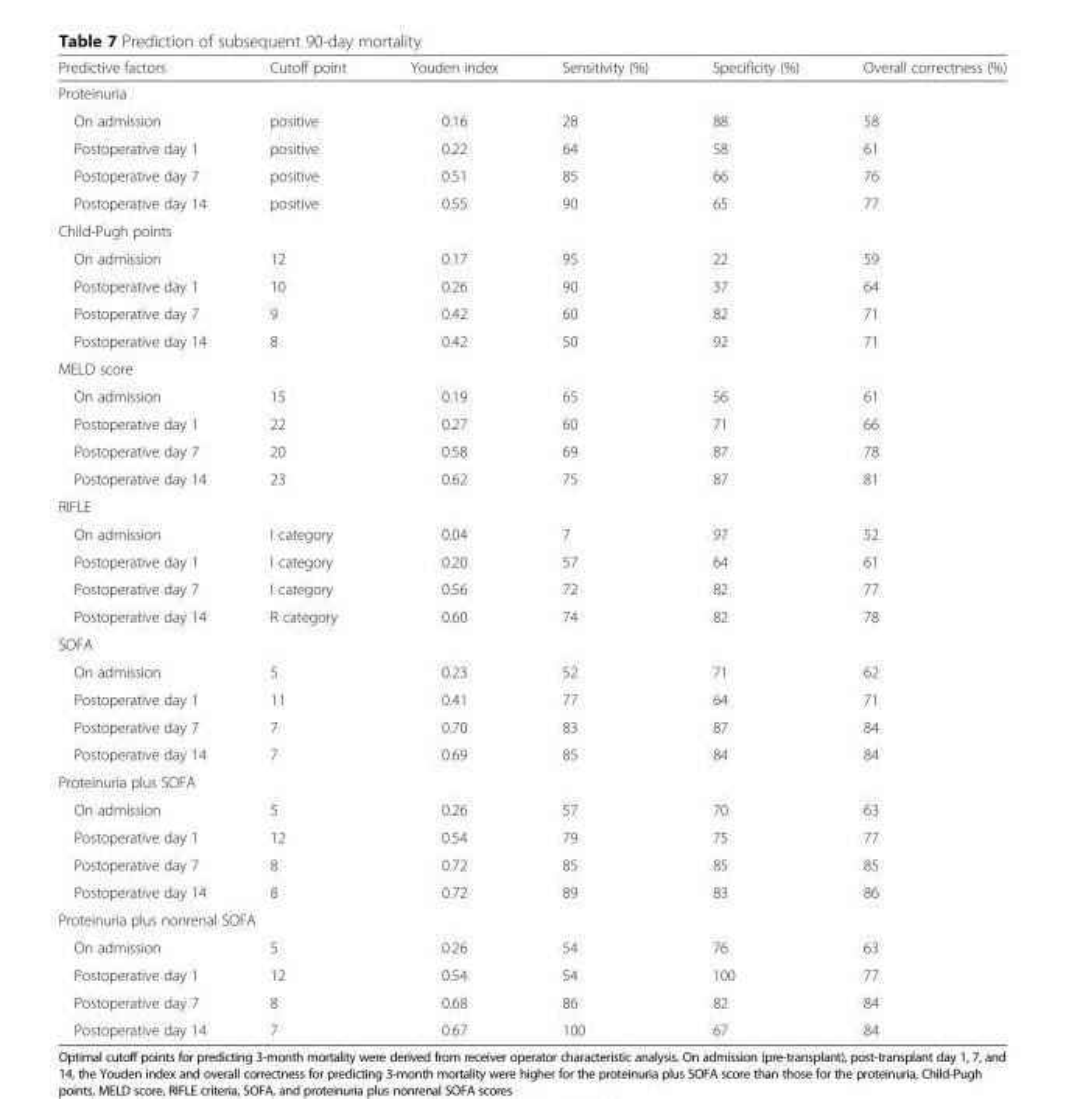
<table><thead><tr><td>Predictive factors</td><td>Cutoff point</td><td>Youden index</td><td>Sensitivity (%)</td><td>Specificity (%)</td><td>Overall correctness (%)</td></tr></thead><tbody><tr><td colspan="6">Proteinuria</td></tr><tr><td>On admission</td><td>positive</td><td>0.16</td><td>28</td><td>88</td><td>58</td></tr><tr><td>Postoperative day 1</td><td>positive</td><td>0.22</td><td>64</td><td>58</td><td>61</td></tr><tr><td>Postoperative day 7</td><td>positive</td><td>0.51</td><td>85</td><td>66</td><td>76</td></tr><tr><td>Postoperative day 14</td><td>positive</td><td>0.55</td><td>90</td><td>65</td><td>77</td></tr><tr><td colspan="6">Child-Pugh points</td></tr><tr><td>On admission</td><td>12</td><td>0.17</td><td>95</td><td>22</td><td>59</td></tr><tr><td>Postoperative day 1</td><td>10</td><td>0.26</td><td>90</td><td>37</td><td>64</td></tr><tr><td>Postoperative day 7</td><td>9</td><td>0.42</td><td>60</td><td>82</td><td>71</td></tr><tr><td>Postoperative day 14</td><td>8</td><td>0.42</td><td>50</td><td>92</td><td>71</td></tr><tr><td colspan="6">MELD score</td></tr><tr><td>On admission</td><td>15</td><td>0.19</td><td>65</td><td>56</td><td>61</td></tr><tr><td>Postoperative day 1</td><td>22</td><td>0.27</td><td>60</td><td>71</td><td>66</td></tr><tr><td>Postoperative day 7</td><td>20</td><td>0.58</td><td>69</td><td>87</td><td>78</td></tr><tr><td>Postoperative day 14</td><td>23</td><td>0.62</td><td>75</td><td>87</td><td>81</td></tr><tr><td colspan="6">RIFLE</td></tr><tr><td>On admission</td><td>I category</td><td>0.04</td><td>7</td><td>97</td><td>52</td></tr><tr><td>Postoperative day 1</td><td>I category</td><td>0.20</td><td>57</td><td>64</td><td>61</td></tr><tr><td>Postoperative day 7</td><td>I category</td><td>0.56</td><td>72</td><td>82</td><td>77</td></tr><tr><td>Postoperative day 14</td><td>R category</td><td>0.60</td><td>74</td><td>82</td><td>78</td></tr><tr><td colspan="6">SOFA</td></tr><tr><td>On admission</td><td>5</td><td>0.23</td><td>52</td><td>71</td><td>62</td></tr><tr><td>Postoperative day 1</td><td>11</td><td>0.41</td><td>77</td><td>64</td><td>71</td></tr><tr><td>Postoperative day 7</td><td>7</td><td>0.70</td><td>83</td><td>87</td><td>84</td></tr><tr><td>Postoperative day 14</td><td>7</td><td>0.69</td><td>85</td><td>84</td><td>84</td></tr><tr><td colspan="6">Proteinuria plus SOFA</td></tr><tr><td>On admission</td><td>5</td><td>0.26</td><td>57</td><td>70</td><td>63</td></tr><tr><td>Postoperative day 1</td><td>12</td><td>0.54</td><td>79</td><td>75</td><td>77</td></tr><tr><td>Postoperative day 7</td><td>8</td><td>0.72</td><td>85</td><td>85</td><td>85</td></tr><tr><td>Postoperative day 14</td><td>8</td><td>0.72</td><td>89</td><td>83</td><td>86</td></tr><tr><td colspan="6">Proteinuria plus nonrenal SOFA</td></tr><tr><td>On admission</td><td>5</td><td>0.26</td><td>54</td><td>76</td><td>63</td></tr><tr><td>Postoperative day 1</td><td>12</td><td>0.54</td><td>54</td><td>100</td><td>77</td></tr><tr><td>Postoperative day 7</td><td>8</td><td>0.68</td><td>86</td><td>82</td><td>84</td></tr><tr><td>Postoperative day 14</td><td>7</td><td>0.67</td><td>100</td><td>67</td><td>84</td></tr></tbody></table>